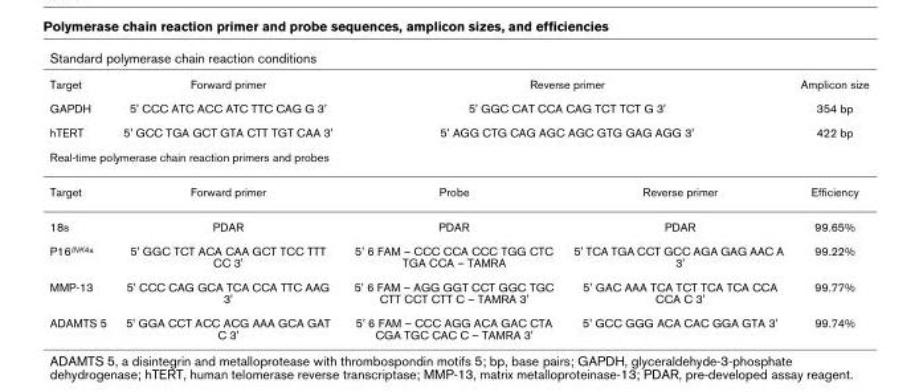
<table><thead><tr><td colspan="5">Standard polymerase chain reaction conditions</td></tr></thead><tbody><tr><td>Target</td><td>Forward primer</td><td colspan="2">Reverse primer</td><td>Amplicon size</td></tr><tr><td>GAPDH</td><td>5&#x27; CCC ATC ACC ATC TTC CAG G 3&#x27;</td><td colspan="2">5&#x27; GGC CAT CCA CAG TCT TCT G 3&#x27;</td><td>354 bp</td></tr><tr><td>hTERT</td><td>5&#x27; GCC TGA GCT GTA CTT TGT CAA 3&#x27;</td><td colspan="2">5&#x27; AGG CTG CAG AGC AGC GTG GAG AGG 3&#x27;</td><td>422 bp</td></tr><tr><td colspan="5">Real-time polymerase chain reaction primers and probes</td></tr><tr><td>Target</td><td>Forward primer</td><td>Probe</td><td>Reverse primer</td><td>Efficiency</td></tr><tr><td>18s</td><td>PDAR</td><td>PDAR</td><td>PDAR</td><td>99.65%</td></tr><tr><td>P16<sup>INK4a</sup></td><td>5&#x27; GGC TCT ACA CAA GCT TCC TTT CC 3&#x27;</td><td>5&#x27; 6 FAM – CCC CCA CCC TGG CTC TGA CCA – TAMRA</td><td>5&#x27; TCA TGA CCT GCC AGA GAG AAC A 3&#x27;</td><td>99.22%</td></tr><tr><td>MMP-13</td><td>5&#x27; CCC CAG GCA TCA CCA TTC AAG 3&#x27;</td><td>5&#x27; 6 FAM – AGG GGT CCT GGC TGC CTT CCT CTT C – TAMRA 3&#x27;</td><td>5&#x27; GAC AAA TCA TCT TCA TCA CCA CCA C 3&#x27;</td><td>99.77%</td></tr><tr><td>ADAMTS 5</td><td>5&#x27; GGA CCT ACC ACG AAA GCA GAT C 3&#x27;</td><td>5&#x27; 6 FAM – CCC AGG ACA GAC CTA CGA TGC CAC C – TAMRA 3&#x27;</td><td>5&#x27; GCC GGG ACA CAC GGA GTA 3&#x27;</td><td>99.74%</td></tr></tbody></table>